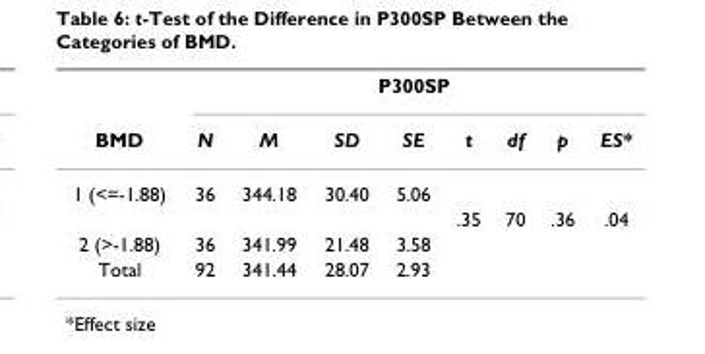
<table><thead><tr><td rowspan="2">BMD</td><td colspan="8">P300SP</td></tr><tr><td>N</td><td>M</td><td>SD</td><td>SE</td><td>t</td><td>df</td><td>p</td><td>ES*</td></tr></thead><tbody><tr><td rowspan="2">1 (&lt;=-1.88)</td><td>36</td><td>344.18</td><td>30.40</td><td>5.06</td><td></td><td></td><td></td><td></td></tr><tr><td></td><td></td><td></td><td></td><td>.35</td><td>70</td><td>.36</td><td>.04</td></tr><tr><td>2 (&gt;-1.88)</td><td>36</td><td>341.99</td><td>21.48</td><td>3.58</td><td></td><td></td><td></td><td></td></tr><tr><td>Total</td><td>92</td><td>341.44</td><td>28.07</td><td>2.93</td><td></td><td></td><td></td><td></td></tr></tbody></table>